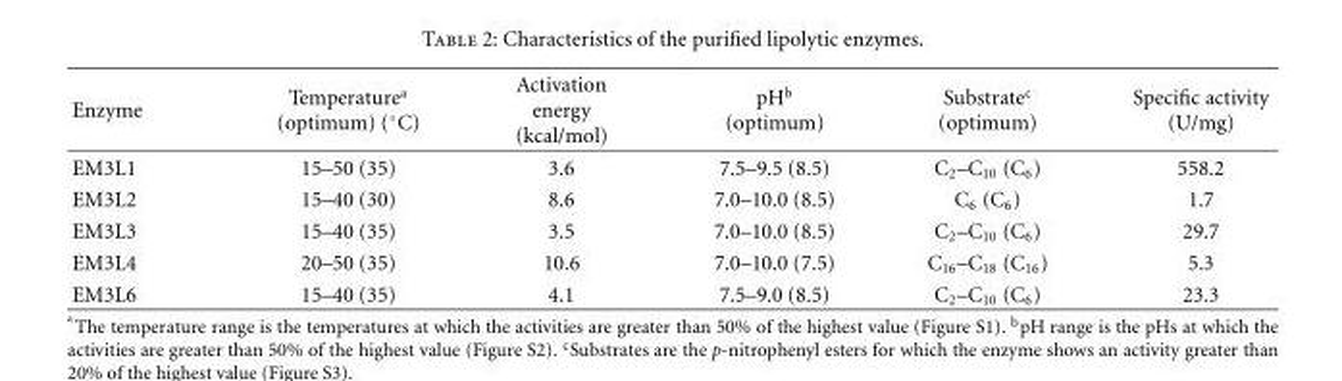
<table><thead><tr><td>Enzyme</td><td>Temperaturea (optimum) (◦C)</td><td>Activation energy (kcal/mol)</td><td>pH<sup>b</sup> (optimum)</td><td>Substrate<sup>c</sup> (optimum)</td><td>Specific activity (U/mg)</td></tr></thead><tbody><tr><td>EM3L1</td><td>15–50 (35)</td><td>3.6</td><td>7.5–9.5 (8.5)</td><td>C<sub>2</sub>–C<sub>10</sub> (C<sub>6</sub>)</td><td>558.2</td></tr><tr><td>EM3L2</td><td>15–40 (30)</td><td>8.6</td><td>7.0–10.0 (8.5)</td><td>C<sub>6</sub> (C<sub>6</sub>)</td><td>1.7</td></tr><tr><td>EM3L3</td><td>15–40 (35)</td><td>3.5</td><td>7.0–10.0 (8.5)</td><td>C<sub>2</sub>–C<sub>10</sub> (C<sub>6</sub>)</td><td>29.7</td></tr><tr><td>EM3L4</td><td>20–50 (35)</td><td>10.6</td><td>7.0–10.0 (7.5)</td><td>C<sub>16</sub>–C<sub>18</sub> (C<sub>16</sub>)</td><td>5.3</td></tr><tr><td>EM3L6</td><td>15–40 (35)</td><td>4.1</td><td>7.5–9.0 (8.5)</td><td>C<sub>2</sub>–C<sub>10</sub> (C<sub>6</sub>)</td><td>23.3</td></tr></tbody></table>